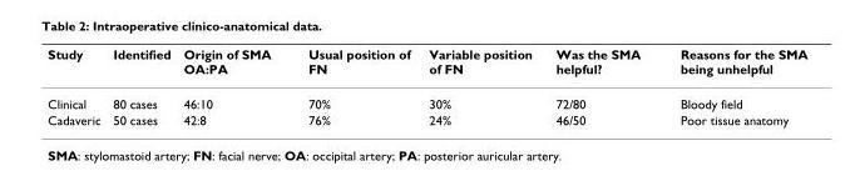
<table><thead><tr><td>Study</td><td>Identified</td><td>Origin of SMA OA:PA</td><td>Usual position of FN</td><td>Variable position of FN</td><td>Was the SMA helpful?</td><td>Reasons for the SMA being unhelpful</td></tr></thead><tbody><tr><td>Clinical</td><td>80 cases</td><td>46:10</td><td>70%</td><td>30%</td><td>72/80</td><td>Bloody field</td></tr><tr><td>Cadaveric</td><td>50 cases</td><td>42:8</td><td>76%</td><td>24%</td><td>46/50</td><td>Poor tissue anatomy</td></tr></tbody></table>